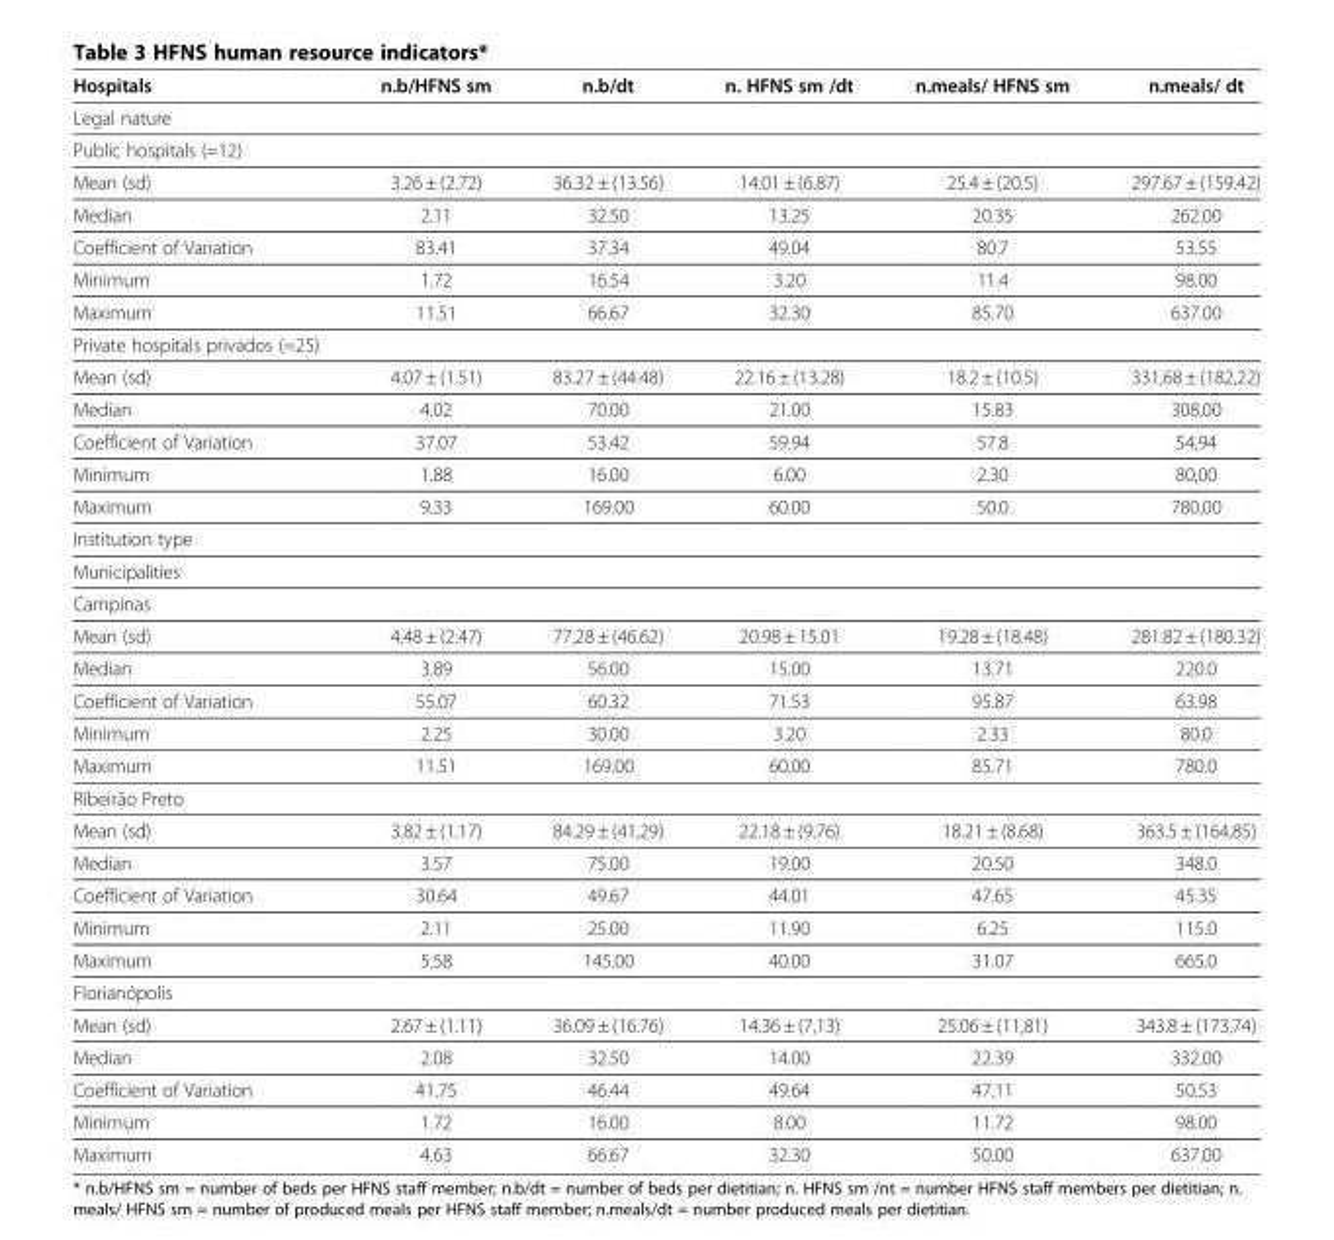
<table><thead><tr><td>Hospitals</td><td>n.b/HFNS sm</td><td>n.b/dt</td><td>n. HFNS sm /dt</td><td>n.meals/ HFNS sm</td><td>n.meals/ dt</td></tr></thead><tbody><tr><td colspan="6">Legal nature</td></tr><tr><td colspan="6">Public hospitals (=12)</td></tr><tr><td>Mean (sd)</td><td>3.26 ± (2.72)</td><td>36.32 ± (13.56)</td><td>14.01 ± (6.87)</td><td>25.4 ± (20.5)</td><td>297.67 ± (159.42)</td></tr><tr><td>Median</td><td>2.11</td><td>32.50</td><td>13.25</td><td>20.35</td><td>262.00</td></tr><tr><td>Coefficient of Variation</td><td>83.41</td><td>37.34</td><td>49.04</td><td>80.7</td><td>53.55</td></tr><tr><td>Minimum</td><td>1.72</td><td>16.54</td><td>3.20</td><td>11.4</td><td>98.00</td></tr><tr><td>Maximum</td><td>11.51</td><td>66.67</td><td>32.30</td><td>85.70</td><td>637.00</td></tr><tr><td colspan="6">Private hospitals privados (=25)</td></tr><tr><td>Mean (sd)</td><td>4.07 ± (1.51)</td><td>83.27 ± (44.48)</td><td>22.16 ± (13.28)</td><td>18.2 ± (10.5)</td><td>331,68 ± (182,22)</td></tr><tr><td>Median</td><td>4.02</td><td>70.00</td><td>21.00</td><td>15.83</td><td>308,00</td></tr><tr><td>Coefficient of Variation</td><td>37.07</td><td>53.42</td><td>59.94</td><td>57.8</td><td>54,94</td></tr><tr><td>Minimum</td><td>1.88</td><td>16.00</td><td>6.00</td><td>2.30</td><td>80,00</td></tr><tr><td>Maximum</td><td>9.33</td><td>169.00</td><td>60.00</td><td>50.0</td><td>780,00</td></tr><tr><td colspan="6">Institution type</td></tr><tr><td colspan="6">Municipalities</td></tr><tr><td colspan="6">Campinas</td></tr><tr><td>Mean (sd)</td><td>4.48 ± (2.47)</td><td>77.28 ± (46.62)</td><td>20.98 ± 15.01</td><td>19.28 ± (18.48)</td><td>281.82 ± (180.32)</td></tr><tr><td>Median</td><td>3.89</td><td>56.00</td><td>15.00</td><td>13.71</td><td>220.0</td></tr><tr><td>Coefficient of Variation</td><td>55.07</td><td>60.32</td><td>71.53</td><td>95.87</td><td>63.98</td></tr><tr><td>Minimum</td><td>2.25</td><td>30.00</td><td>3.20</td><td>2.33</td><td>80.0</td></tr><tr><td>Maximum</td><td>11.51</td><td>169.00</td><td>60.00</td><td>85.71</td><td>780.0</td></tr><tr><td colspan="6">Ribeirão Preto</td></tr><tr><td>Mean (sd)</td><td>3.82 ± (1.17)</td><td>84.29 ± (41,29)</td><td>22.18 ± (9.76)</td><td>18.21 ± (8.68)</td><td>363.5 ± (164,85)</td></tr><tr><td>Median</td><td>3.57</td><td>75.00</td><td>19.00</td><td>20.50</td><td>348.0</td></tr><tr><td>Coefficient of Variation</td><td>30.64</td><td>49.67</td><td>44.01</td><td>47.65</td><td>45.35</td></tr><tr><td>Minimum</td><td>2.11</td><td>25.00</td><td>11.90</td><td>6.25</td><td>115.0</td></tr><tr><td>Maximum</td><td>5.58</td><td>145.00</td><td>40.00</td><td>31.07</td><td>665.0</td></tr><tr><td colspan="6">Florianópolis</td></tr><tr><td>Mean (sd)</td><td>2.67 ± (1.11)</td><td>36.09 ± (16.76)</td><td>14.36 ± (7,13)</td><td>25.06 ± (11,81)</td><td>343.8 ± (173,74)</td></tr><tr><td>Median</td><td>2.08</td><td>32.50</td><td>14.00</td><td>22.39</td><td>332.00</td></tr><tr><td>Coefficient of Variation</td><td>41.75</td><td>46.44</td><td>49.64</td><td>47.11</td><td>50.53</td></tr><tr><td>Minimum</td><td>1.72</td><td>16.00</td><td>8.00</td><td>11.72</td><td>98.00</td></tr><tr><td>Maximum</td><td>4.63</td><td>66.67</td><td>32.30</td><td>50.00</td><td>637.00</td></tr></tbody></table>